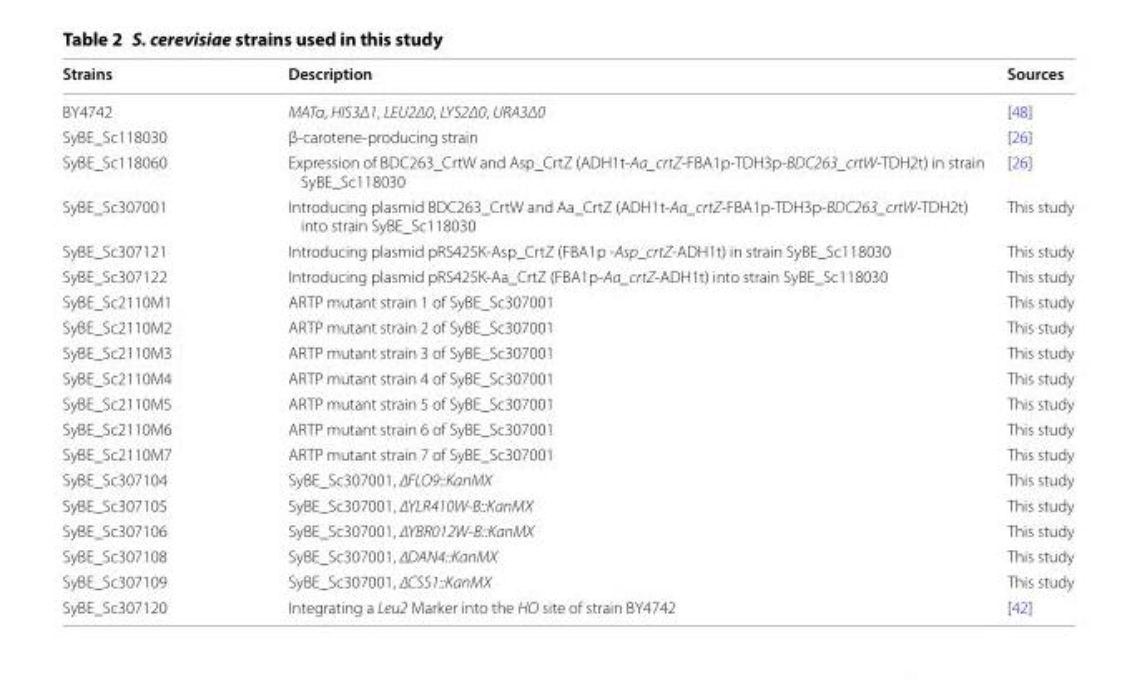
<table><thead><tr><td>Strains</td><td>Description</td><td>Sources</td></tr></thead><tbody><tr><td>BY4742</td><td>MATα, HIS3Δ1, LEU2Δ0, LYS2Δ0, URA3Δ0</td><td>[48]</td></tr><tr><td>SyBE_Sc118030</td><td>β-carotene-producing strain</td><td>[26]</td></tr><tr><td>SyBE_Sc118060</td><td>Expression of BDC263_CrtW and Asp_CrtZ (ADH1t-Aa_crtZ-FBA1p-TDH3p-BDC263_crtW-TDH2t) in strain SyBE_Sc118030</td><td>[26]</td></tr><tr><td>SyBE_Sc307001</td><td>Introducing plasmid BDC263_CrtW and Aa_CrtZ (ADH1t-Aa_crtZ-FBA1p-TDH3p-BDC263_crtW-TDH2t) into strain SyBE_Sc118030</td><td>This study</td></tr><tr><td>SyBE_Sc307121</td><td>Introducing plasmid pRS425K-Asp_CrtZ (FBA1p -Asp_crtZ-ADH1t) in strain SyBE_Sc118030</td><td>This study</td></tr><tr><td>SyBE_Sc307122</td><td>Introducing plasmid pRS425K-Aa_CrtZ (FBA1p-Aa_crtZ-ADH1t) into strain SyBE_Sc118030</td><td>This study</td></tr><tr><td>SyBE_Sc2110M1</td><td>ARTP mutant strain 1 of SyBE_Sc307001</td><td>This study</td></tr><tr><td>SyBE_Sc2110M2</td><td>ARTP mutant strain 2 of SyBE_Sc307001</td><td>This study</td></tr><tr><td>SyBE_Sc2110M3</td><td>ARTP mutant strain 3 of SyBE_Sc307001</td><td>This study</td></tr><tr><td>SyBE_Sc2110M4</td><td>ARTP mutant strain 4 of SyBE_Sc307001</td><td>This study</td></tr><tr><td>SyBE_Sc2110M5</td><td>ARTP mutant strain 5 of SyBE_Sc307001</td><td>This study</td></tr><tr><td>SyBE_Sc2110M6</td><td>ARTP mutant strain 6 of SyBE_Sc307001</td><td>This study</td></tr><tr><td>SyBE_Sc2110M7</td><td>ARTP mutant strain 7 of SyBE_Sc307001</td><td>This study</td></tr><tr><td>SyBE_Sc307104</td><td>SyBE_Sc307001, ∆FLO9::KanMX</td><td>This study</td></tr><tr><td>SyBE_Sc307105</td><td>SyBE_Sc307001, ∆YLR410W-B::KanMX</td><td>This study</td></tr><tr><td>SyBE_Sc307106</td><td>SyBE_Sc307001, ∆YBR012W-B::KanMX</td><td>This study</td></tr><tr><td>SyBE_Sc307108</td><td>SyBE_Sc307001, ∆DAN4::KanMX</td><td>This study</td></tr><tr><td>SyBE_Sc307109</td><td>SyBE_Sc307001, ∆CSS1::KanMX</td><td>This study</td></tr><tr><td>SyBE_Sc307120</td><td>Integrating a Leu2 Marker into the HO site of strain BY4742</td><td>[42]</td></tr></tbody></table>